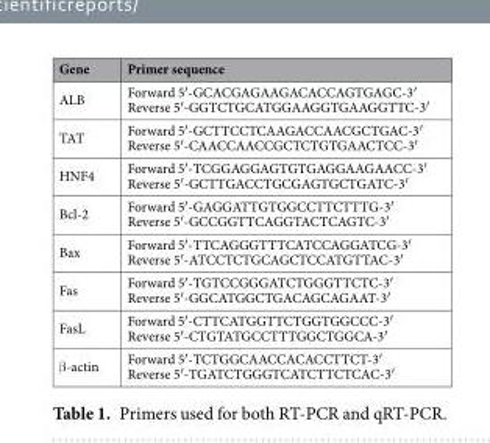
<table><thead><tr><td>Gene</td><td>Primer sequence</td></tr></thead><tbody><tr><td>ALB</td><td>Forward 5′-GCACGAGAAGACACCAGTGAGC-3′ Reverse 5′-GGTCTGCATGGAAGGTGAAGGTTC-3′</td></tr><tr><td>TAT</td><td>Forward 5′-GCTTCCTCAAGACCAACGCTGAC-3′ Reverse 5′-CAACCAACCGCTCTGTGAACTCC-3′</td></tr><tr><td>HNF4</td><td>Forward 5′-TCGGAGGAGTGTGAGGAAGAACC-3′ Reverse 5′-GCTTGACCTGCGAGTGCTGATC-3′</td></tr><tr><td>Bcl-2</td><td>Forward 5′-GAGGATTGTGGCCTTCTTTG-3′ Reverse 5′-GCCGGTTCAGGTACTCAGTC-3′</td></tr><tr><td>Bax</td><td>Forward 5′-TTCAGGGTTTCATCCAGGATCG-3′ Reverse 5′-ATCCTCTGCAGCTCCATGTTAC-3′</td></tr><tr><td>Fas</td><td>Forward 5′-TGTCCGGGATCTGGGTTCTC-3′ Reverse 5′-GGCATGGCTGACAGCAGAAT-3′</td></tr><tr><td>FasL</td><td>Forward 5′-CTTCATGGTTCTGGTGGCCC-3′ Reverse 5′-CTGTATGCCTTTGGCTGGCA-3′</td></tr><tr><td>β-actin</td><td>Forward 5′-TCTGGCAACCACACCTTCT-3′ Reverse 5′-TGATCTGGGTCATCTTCTCAC-3′</td></tr></tbody></table>